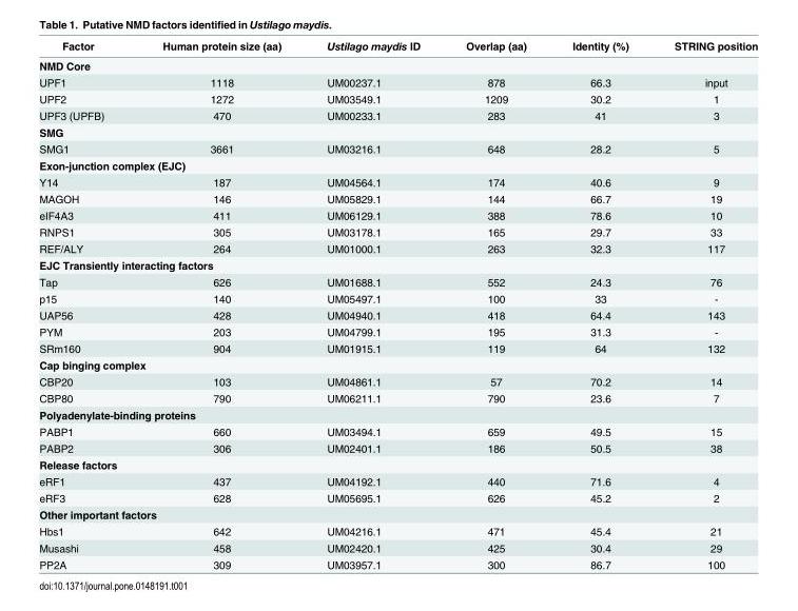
<table><thead><tr><td>Factor</td><td>Human protein size (aa)</td><td>Ustilago maydis ID</td><td>Overlap (aa)</td><td>Identity (%)</td><td>STRING position</td></tr></thead><tbody><tr><td colspan="6">NMD Core</td></tr><tr><td>UPF1</td><td>1118</td><td>UM00237.1</td><td>878</td><td>66.3</td><td>input</td></tr><tr><td>UPF2</td><td>1272</td><td>UM03549.1</td><td>1209</td><td>30.2</td><td>1</td></tr><tr><td>UPF3 (UPFB)</td><td>470</td><td>UM00233.1</td><td>283</td><td>41</td><td>3</td></tr><tr><td colspan="6">SMG</td></tr><tr><td>SMG1</td><td>3661</td><td>UM03216.1</td><td>648</td><td>28.2</td><td>5</td></tr><tr><td colspan="6">Exon-junction complex (EJC)</td></tr><tr><td>Y14</td><td>187</td><td>UM04564.1</td><td>174</td><td>40.6</td><td>9</td></tr><tr><td>MAGOH</td><td>146</td><td>UM05829.1</td><td>144</td><td>66.7</td><td>19</td></tr><tr><td>eIF4A3</td><td>411</td><td>UM06129.1</td><td>388</td><td>78.6</td><td>10</td></tr><tr><td>RNPS1</td><td>305</td><td>UM03178.1</td><td>165</td><td>29.7</td><td>33</td></tr><tr><td>REF/ALY</td><td>264</td><td>UM01000.1</td><td>263</td><td>32.3</td><td>117</td></tr><tr><td colspan="6">EJC Transiently interacting factors</td></tr><tr><td>Tap</td><td>626</td><td>UM01688.1</td><td>552</td><td>24.3</td><td>76</td></tr><tr><td>p15</td><td>140</td><td>UM05497.1</td><td>100</td><td>33</td><td>-</td></tr><tr><td>UAP56</td><td>428</td><td>UM04940.1</td><td>418</td><td>64.4</td><td>143</td></tr><tr><td>PYM</td><td>203</td><td>UM04799.1</td><td>195</td><td>31.3</td><td>-</td></tr><tr><td>SRm160</td><td>904</td><td>UM01915.1</td><td>119</td><td>64</td><td>132</td></tr><tr><td colspan="6">Cap binging complex</td></tr><tr><td>CBP20</td><td>103</td><td>UM04861.1</td><td>57</td><td>70.2</td><td>14</td></tr><tr><td>CBP80</td><td>790</td><td>UM06211.1</td><td>790</td><td>23.6</td><td>7</td></tr><tr><td colspan="6">Polyadenylate-binding proteins</td></tr><tr><td>PABP1</td><td>660</td><td>UM03494.1</td><td>659</td><td>49.5</td><td>15</td></tr><tr><td>PABP2</td><td>306</td><td>UM02401.1</td><td>186</td><td>50.5</td><td>38</td></tr><tr><td colspan="6">Release factors</td></tr><tr><td>eRF1</td><td>437</td><td>UM04192.1</td><td>440</td><td>71.6</td><td>4</td></tr><tr><td>eRF3</td><td>628</td><td>UM05695.1</td><td>626</td><td>45.2</td><td>2</td></tr><tr><td colspan="6">Other important factors</td></tr><tr><td>Hbs1</td><td>642</td><td>UM04216.1</td><td>471</td><td>45.4</td><td>21</td></tr><tr><td>Musashi</td><td>458</td><td>UM02420.1</td><td>425</td><td>30.4</td><td>29</td></tr><tr><td>PP2A</td><td>309</td><td>UM03957.1</td><td>300</td><td>86.7</td><td>100</td></tr></tbody></table>